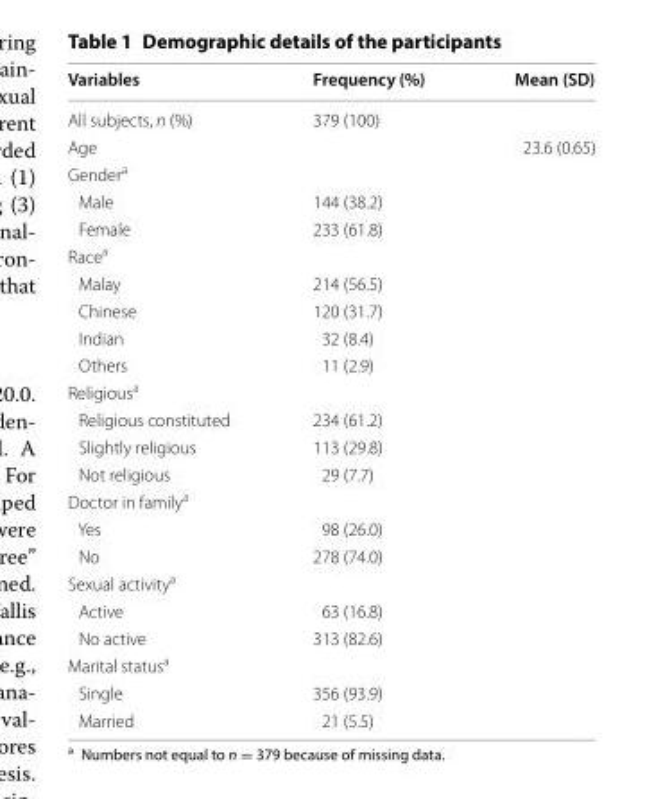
<table><thead><tr><td>Variables</td><td>Frequency (%)</td><td>Mean (SD)</td></tr></thead><tbody><tr><td>All subjects, n (%)</td><td>379 (100)</td><td></td></tr><tr><td>Age</td><td></td><td>23.6 (0.65)</td></tr><tr><td colspan="3">Gender<sup>a</sup></td></tr><tr><td>Male</td><td>144 (38.2)</td><td></td></tr><tr><td>Female</td><td>233 (61.8)</td><td></td></tr><tr><td colspan="3">Race<sup>a</sup></td></tr><tr><td>Malay</td><td>214 (56.5)</td><td></td></tr><tr><td>Chinese</td><td>120 (31.7)</td><td></td></tr><tr><td>Indian</td><td>32 (8.4)</td><td></td></tr><tr><td>Others</td><td>11 (2.9)</td><td></td></tr><tr><td colspan="3">Religious<sup>a</sup></td></tr><tr><td>Religious constituted</td><td>234 (61.2)</td><td></td></tr><tr><td>Slightly religious</td><td>113 (29.8)</td><td></td></tr><tr><td>Not religious</td><td>29 (7.7)</td><td></td></tr><tr><td colspan="3">Doctor in family<sup>a</sup></td></tr><tr><td>Yes</td><td>98 (26.0)</td><td></td></tr><tr><td>No</td><td>278 (74.0)</td><td></td></tr><tr><td colspan="3">Sexual activity<sup>a</sup></td></tr><tr><td>Active</td><td>63 (16.8)</td><td></td></tr><tr><td>No active</td><td>313 (82.6)</td><td></td></tr><tr><td colspan="3">Marital status<sup>a</sup></td></tr><tr><td>Single</td><td>356 (93.9)</td><td></td></tr><tr><td>Married</td><td>21 (5.5)</td><td></td></tr></tbody></table>